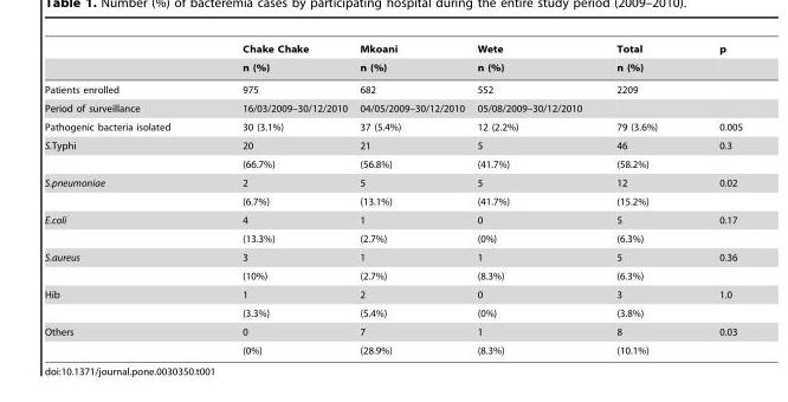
<table><thead><tr><td rowspan="2"></td><td rowspan="2">Chake Chake n (%)</td><td rowspan="2">Mkoani n (%)</td><td rowspan="2">Wete n (%)</td><td rowspan="2">Total n (%)</td><td rowspan="2">p</td></tr><tr></tr></thead><tbody><tr><td>Patients enrolled</td><td>975</td><td>682</td><td>552</td><td>2209</td><td></td></tr><tr><td>Period of surveillance</td><td>16/03/2009–30/12/2010</td><td>04/05/2009–30/12/2010</td><td>05/08/2009–30/12/2010</td><td></td><td></td></tr><tr><td>Pathogenic bacteria isolated</td><td>30 (3.1%)</td><td>37 (5.4%)</td><td>12 (2.2%)</td><td>79 (3.6%)</td><td>0.005</td></tr><tr><td rowspan="2">S.Typhi</td><td>20</td><td>21</td><td>5</td><td>46</td><td>0.3</td></tr><tr><td>(66.7%)</td><td>(56.8%)</td><td>(41.7%)</td><td>(58.2%)</td><td></td></tr><tr><td rowspan="2">S.pneumoniae</td><td>2</td><td>5</td><td>5</td><td>12</td><td>0.02</td></tr><tr><td>(6.7%)</td><td>(13.1%)</td><td>(41.7%)</td><td>(15.2%)</td><td></td></tr><tr><td rowspan="2">E.coli</td><td>4</td><td>1</td><td>0</td><td>5</td><td>0.17</td></tr><tr><td>(13.3%)</td><td>(2.7%)</td><td>(0%)</td><td>(6.3%)</td><td></td></tr><tr><td rowspan="2">S.aureus</td><td>3</td><td>1</td><td>1</td><td>5</td><td>0.36</td></tr><tr><td>(10%)</td><td>(2.7%)</td><td>(8.3%)</td><td>(6.3%)</td><td></td></tr><tr><td rowspan="2">Hib</td><td>1</td><td>2</td><td>0</td><td>3</td><td>1.0</td></tr><tr><td>(3.3%)</td><td>(5.4%)</td><td>(0%)</td><td>(3.8%)</td><td></td></tr><tr><td rowspan="2">Others</td><td>0</td><td>7</td><td>1</td><td>8</td><td>0.03</td></tr><tr><td>(0%)</td><td>(28.9%)</td><td>(8.3%)</td><td>(10.1%)</td><td></td></tr></tbody></table>